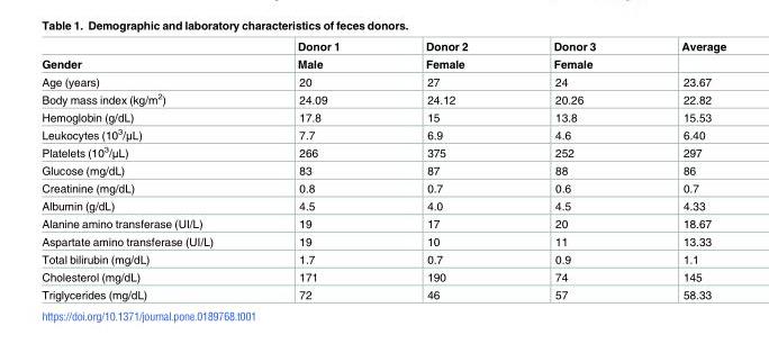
<table><thead><tr><td rowspan="2">Gender</td><td rowspan="2">Donor 1 Male</td><td rowspan="2">Donor 2 Female</td><td rowspan="2">Donor 3 Female</td><td rowspan="2">Average</td></tr><tr></tr></thead><tbody><tr><td>Age (years)</td><td>20</td><td>27</td><td>24</td><td>23.67</td></tr><tr><td>Body mass index (kg/m<sup>2</sup>)</td><td>24.09</td><td>24.12</td><td>20.26</td><td>22.82</td></tr><tr><td>Hemoglobin (g/dL)</td><td>17.8</td><td>15</td><td>13.8</td><td>15.53</td></tr><tr><td>Leukocytes (10<sup>3</sup>/μL)</td><td>7.7</td><td>6.9</td><td>4.6</td><td>6.40</td></tr><tr><td>Platelets (10<sup>3</sup>/μL)</td><td>266</td><td>375</td><td>252</td><td>297</td></tr><tr><td>Glucose (mg/dL)</td><td>83</td><td>87</td><td>88</td><td>86</td></tr><tr><td>Creatinine (mg/dL)</td><td>0.8</td><td>0.7</td><td>0.6</td><td>0.7</td></tr><tr><td>Albumin (g/dL)</td><td>4.5</td><td>4.0</td><td>4.5</td><td>4.33</td></tr><tr><td>Alanine amino transferase (UI/L)</td><td>19</td><td>17</td><td>20</td><td>18.67</td></tr><tr><td>Aspartate amino transferase (UI/L)</td><td>19</td><td>10</td><td>11</td><td>13.33</td></tr><tr><td>Total bilirubin (mg/dL)</td><td>1.7</td><td>0.7</td><td>0.9</td><td>1.1</td></tr><tr><td>Cholesterol (mg/dL)</td><td>171</td><td>190</td><td>74</td><td>145</td></tr><tr><td>Triglycerides (mg/dL)</td><td>72</td><td>46</td><td>57</td><td>58.33</td></tr></tbody></table>